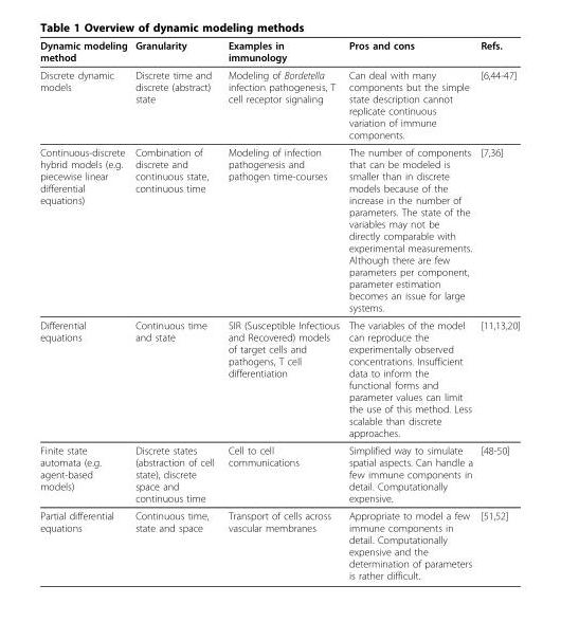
<table><thead><tr><td>Dynamic modeling method</td><td>Granularity</td><td>Examples in immunology</td><td>Pros and cons</td><td>Refs.</td></tr></thead><tbody><tr><td>Discrete dynamic models</td><td>Discrete time and discrete (abstract) state</td><td>Modeling of Bordetella infection pathogenesis, T cell receptor signaling</td><td>Can deal with many components but the simple state description cannot replicate continuous variation of immune components.</td><td>[6,44-47]</td></tr><tr><td>Continuous-discrete hybrid models (e.g. piecewise linear differential equations)</td><td>Combination of discrete and continuous state, continuous time</td><td>Modeling of infection pathogenesis and pathogen time-courses</td><td>The number of components that can be modeled is smaller than in discrete models because of the increase in the number of parameters. The state of the variables may not be directly comparable with experimental measurements. Although there are few parameters per component, parameter estimation becomes an issue for large systems.</td><td>[7,36]</td></tr><tr><td>Differential equations</td><td>Continuous time and state</td><td>SIR (Susceptible Infectious and Recovered) models of target cells and pathogens, T cell differentiation</td><td>The variables of the model can reproduce the experimentally observed concentrations. Insufficient data to inform the functional forms and parameter values can limit the use of this method. Less scalable than discrete approaches.</td><td>[11,13,20]</td></tr><tr><td>Finite state automata (e.g. agent-based models)</td><td>Discrete states (abstraction of cell state), discrete space and continuous time</td><td>Cell to cell communications</td><td>Simplified way to simulate spatial aspects. Can handle a few immune components in detail. Computationally expensive.</td><td>[48-50]</td></tr><tr><td>Partial differential equations</td><td>Continuous time, state and space</td><td>Transport of cells across vascular membranes</td><td>Appropriate to model a few immune components in detail. Computationally expensive and the determination of parameters is rather difficult.</td><td>[51,52]</td></tr></tbody></table>